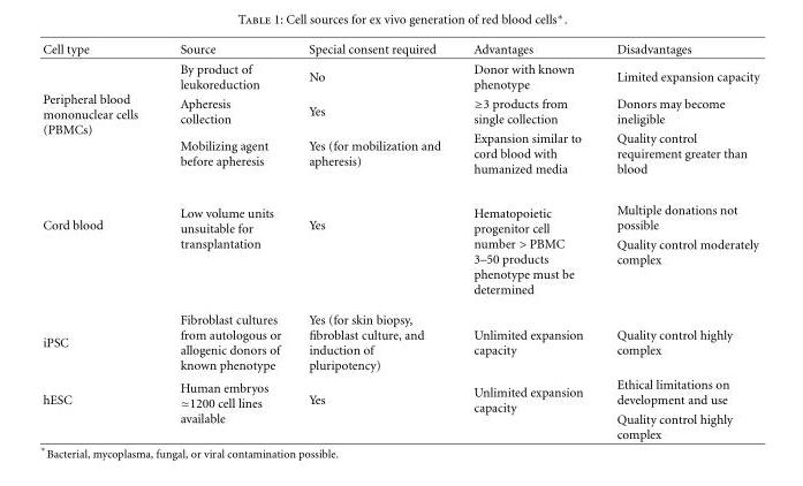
<table><thead><tr><td>Cell type</td><td>Source</td><td>Special consent required</td><td>Advantages</td><td>Disadvantages</td></tr></thead><tbody><tr><td rowspan="3">Peripheral blood mononuclear cells (PBMCs)</td><td>By product of leukoreduction</td><td>No</td><td>Donor with known phenotype</td><td>Limited expansion capacity</td></tr><tr><td>Apheresis collection</td><td>Yes</td><td>≥3 products from single collection</td><td>Donors may become ineligible</td></tr><tr><td>Mobilizing agent before apheresis</td><td>Yes (for mobilization and apheresis)</td><td>Expansion similar to cord blood with humanized media</td><td>Quality control requirement greater than blood</td></tr><tr><td rowspan="2">Cord blood</td><td rowspan="2">Low volume units unsuitable for transplantation</td><td rowspan="2">Yes</td><td rowspan="2">Hematopoietic progenitor cell number &gt; PBMC 3–50 products phenotype must be determined</td><td>Multiple donations not possible</td></tr><tr><td>Quality control moderately complex</td></tr><tr><td>iPSC</td><td>Fibroblast cultures from autologous or allogenic donors of known phenotype</td><td>Yes (for skin biopsy, fibroblast culture, and induction of pluripotency)</td><td>Unlimited expansion capacity</td><td>Quality control highly complex</td></tr><tr><td rowspan="2">hESC</td><td rowspan="2">Human embryos ≃1200 cell lines available</td><td rowspan="2">Yes</td><td rowspan="2">Unlimited expansion capacity</td><td>Ethical limitations on development and use</td></tr><tr><td>Quality control highly complex</td></tr></tbody></table>